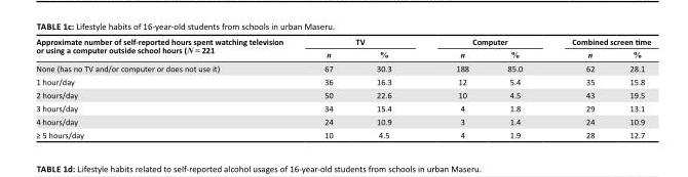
<table><thead><tr><td rowspan="2">Approximate number of self-reported hours spent watching television or using a computer outside school hours (N = 221</td><td colspan="2">TV</td><td colspan="2">Computer</td><td colspan="2">Combined screen time</td></tr><tr><td>n</td><td>%</td><td>n</td><td>%</td><td>n</td><td>%</td></tr></thead><tbody><tr><td>None (has no TV and/or computer or does not use it)</td><td>67</td><td>30.3</td><td>188</td><td>85.0</td><td>62</td><td>28.1</td></tr><tr><td>1 hour/day</td><td>36</td><td>16.3</td><td>12</td><td>5.4</td><td>35</td><td>15.8</td></tr><tr><td>2 hours/day</td><td>50</td><td>22.6</td><td>10</td><td>4.5</td><td>43</td><td>19.5</td></tr><tr><td>3 hours/day</td><td>34</td><td>15.4</td><td>4</td><td>1.8</td><td>29</td><td>13.1</td></tr><tr><td>4 hours/day</td><td>24</td><td>10.9</td><td>3</td><td>1.4</td><td>24</td><td>10.9</td></tr><tr><td>≥ 5 hours/day</td><td>10</td><td>4.5</td><td>4</td><td>1.9</td><td>28</td><td>12.7</td></tr></tbody></table>